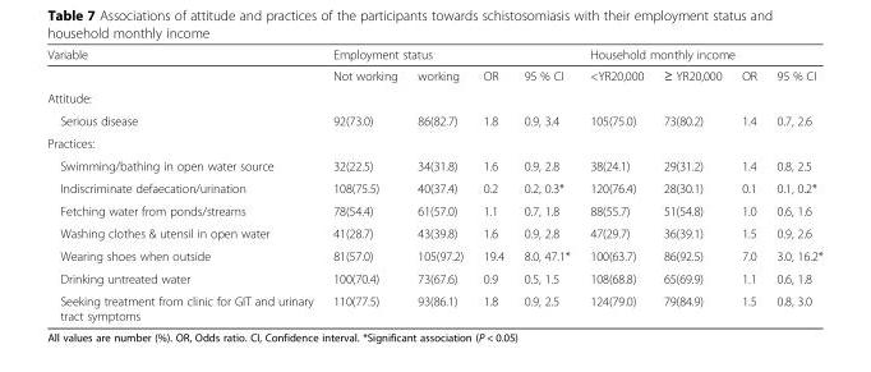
<table><thead><tr><td rowspan="2">Variable</td><td colspan="4">Employment status</td><td colspan="4">Household monthly income</td></tr><tr><td>Not working</td><td>working</td><td>OR</td><td>95 % CI</td><td>&lt;YR20,000</td><td>≥ YR20,000</td><td>OR</td><td>95 % CI</td></tr></thead><tbody><tr><td colspan="9">Attitude:</td></tr><tr><td>Serious disease</td><td>92(73.0)</td><td>86(82.7)</td><td>1.8</td><td>0.9, 3.4</td><td>105(75.0)</td><td>73(80.2)</td><td>1.4</td><td>0.7, 2.6</td></tr><tr><td colspan="9">Practices:</td></tr><tr><td>Swimming/bathing in open water source</td><td>32(22.5)</td><td>34(31.8)</td><td>1.6</td><td>0.9, 2.8</td><td>38(24.1)</td><td>29(31.2)</td><td>1.4</td><td>0.8, 2.5</td></tr><tr><td>Indiscriminate defaecation/urination</td><td>108(75.5)</td><td>40(37.4)</td><td>0.2</td><td>0.2, 0.3*</td><td>120(76.4)</td><td>28(30.1)</td><td>0.1</td><td>0.1, 0.2*</td></tr><tr><td>Fetching water from ponds/streams</td><td>78(54.4)</td><td>61(57.0)</td><td>1.1</td><td>0.7, 1.8</td><td>88(55.7)</td><td>51(54.8)</td><td>1.0</td><td>0.6, 1.6</td></tr><tr><td>Washing clothes &amp; utensil in open water</td><td>41(28.7)</td><td>43(39.8)</td><td>1.6</td><td>0.9, 2.8</td><td>47(29.7)</td><td>36(39.1)</td><td>1.5</td><td>0.9, 2.6</td></tr><tr><td>Wearing shoes when outside</td><td>81(57.0)</td><td>105(97.2)</td><td>19.4</td><td>8.0, 47.1*</td><td>100(63.7)</td><td>86(92.5)</td><td>7.0</td><td>3.0, 16.2*</td></tr><tr><td>Drinking untreated water</td><td>100(70.4)</td><td>73(67.6)</td><td>0.9</td><td>0.5, 1.5</td><td>108(68.8)</td><td>65(69.9)</td><td>1.1</td><td>0.6, 1.8</td></tr><tr><td>Seeking treatment from clinic for GIT and urinary tract symptoms</td><td>110(77.5)</td><td>93(86.1)</td><td>1.8</td><td>0.9, 2.5</td><td>124(79.0)</td><td>79(84.9)</td><td>1.5</td><td>0.8, 3.0</td></tr></tbody></table>